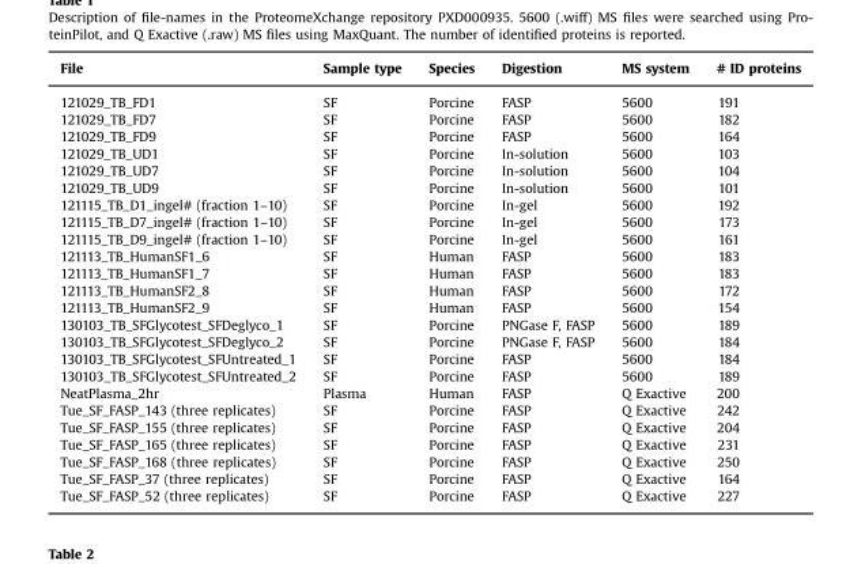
<table><thead><tr><td>File</td><td>Sample type</td><td>Species</td><td>Digestion</td><td>MS system</td><td># ID proteins</td></tr></thead><tbody><tr><td>121029_TB_FD1</td><td>SF</td><td>Porcine</td><td>FASP</td><td>5600</td><td>191</td></tr><tr><td>121029_TB_FD7</td><td>SF</td><td>Porcine</td><td>FASP</td><td>5600</td><td>182</td></tr><tr><td>121029_TB_FD9</td><td>SF</td><td>Porcine</td><td>FASP</td><td>5600</td><td>164</td></tr><tr><td>121029_TB_UD1</td><td>SF</td><td>Porcine</td><td>In-solution</td><td>5600</td><td>103</td></tr><tr><td>121029_TB_UD7</td><td>SF</td><td>Porcine</td><td>In-solution</td><td>5600</td><td>104</td></tr><tr><td>121029_TB_UD9</td><td>SF</td><td>Porcine</td><td>In-solution</td><td>5600</td><td>101</td></tr><tr><td>121115_TB_D1_ingel# (fraction 1–10)</td><td>SF</td><td>Porcine</td><td>In-gel</td><td>5600</td><td>192</td></tr><tr><td>121115_TB_D7_ingel# (fraction 1–10)</td><td>SF</td><td>Porcine</td><td>In-gel</td><td>5600</td><td>173</td></tr><tr><td>121115_TB_D9_ingel# (fraction 1–10)</td><td>SF</td><td>Porcine</td><td>In-gel</td><td>5600</td><td>161</td></tr><tr><td>121113_TB_HumanSF1_6</td><td>SF</td><td>Human</td><td>FASP</td><td>5600</td><td>183</td></tr><tr><td>121113_TB_HumanSF1_7</td><td>SF</td><td>Human</td><td>FASP</td><td>5600</td><td>183</td></tr><tr><td>121113_TB_HumanSF2_8</td><td>SF</td><td>Human</td><td>FASP</td><td>5600</td><td>172</td></tr><tr><td>121113_TB_HumanSF2_9</td><td>SF</td><td>Human</td><td>FASP</td><td>5600</td><td>154</td></tr><tr><td>130103_TB_SFGlycotest_SFDeglyco_1</td><td>SF</td><td>Porcine</td><td>PNGase F, FASP</td><td>5600</td><td>189</td></tr><tr><td>130103_TB_SFGlycotest_SFDeglyco_2</td><td>SF</td><td>Porcine</td><td>PNGase F, FASP</td><td>5600</td><td>184</td></tr><tr><td>130103_TB_SFGlycotest_SFUntreated_1</td><td>SF</td><td>Porcine</td><td>FASP</td><td>5600</td><td>184</td></tr><tr><td>130103_TB_SFGlycotest_SFUntreated_2</td><td>SF</td><td>Porcine</td><td>FASP</td><td>5600</td><td>189</td></tr><tr><td>NeatPlasma_2hr</td><td>Plasma</td><td>Human</td><td>FASP</td><td>Q Exactive</td><td>200</td></tr><tr><td>Tue_SF_FASP_143 (three replicates)</td><td>SF</td><td>Porcine</td><td>FASP</td><td>Q Exactive</td><td>242</td></tr><tr><td>Tue_SF_FASP_155 (three replicates)</td><td>SF</td><td>Porcine</td><td>FASP</td><td>Q Exactive</td><td>204</td></tr><tr><td>Tue_SF_FASP_165 (three replicates)</td><td>SF</td><td>Porcine</td><td>FASP</td><td>Q Exactive</td><td>231</td></tr><tr><td>Tue_SF_FASP_168 (three replicates)</td><td>SF</td><td>Porcine</td><td>FASP</td><td>Q Exactive</td><td>250</td></tr><tr><td>Tue_SF_FASP_37 (three replicates)</td><td>SF</td><td>Porcine</td><td>FASP</td><td>Q Exactive</td><td>164</td></tr><tr><td>Tue_SF_FASP_52 (three replicates)</td><td>SF</td><td>Porcine</td><td>FASP</td><td>Q Exactive</td><td>227</td></tr></tbody></table>